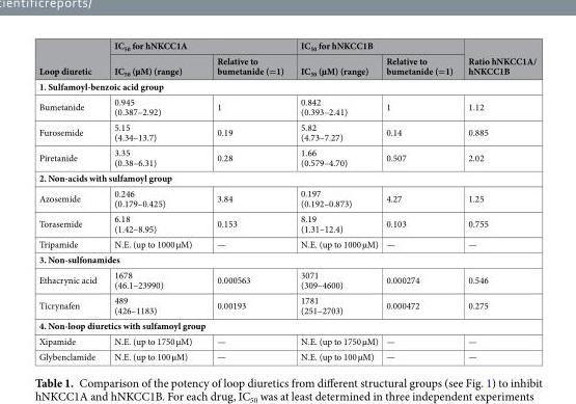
<table><thead><tr><td rowspan="2">Loop diuretic</td><td colspan="2">IC<sub>50</sub> for hNKCC1A</td><td colspan="2">IC<sub>50</sub> for hNKCC1B</td><td rowspan="2">Ratio hNKCC1A/ hNKCC1B</td></tr><tr><td>IC<sub>50</sub> (µM) (range)</td><td>Relative to bumetanide (=1)</td><td>IC<sub>50</sub> (µM) (range)</td><td>Relative to bumetanide (=1)</td></tr></thead><tbody><tr><td colspan="6">1. Sulfamoyl-benzoic acid group</td></tr><tr><td>Bumetanide</td><td>0.945 (0.387–2.92)</td><td>1</td><td>0.842 (0.393–2.41)</td><td>1</td><td>1.12</td></tr><tr><td>Furosemide</td><td>5.15 (4.34–13.7)</td><td>0.19</td><td>5.82 (4.73–7.27)</td><td>0.14</td><td>0.885</td></tr><tr><td>Piretanide</td><td>3.35 (0.38–6.31)</td><td>0.28</td><td>1.66 (0.579–4.70)</td><td>0.507</td><td>2.02</td></tr><tr><td colspan="6">2. Non-acids with sulfamoyl group</td></tr><tr><td>Azosemide</td><td>0.246 (0.179–0.425)</td><td>3.84</td><td>0.197 (0.192–0.873)</td><td>4.27</td><td>1.25</td></tr><tr><td>Torasemide</td><td>6.18 (1.42–8.95)</td><td>0.153</td><td>8.19 (1.31–12.4)</td><td>0.103</td><td>0.755</td></tr><tr><td>Tripamide</td><td>N.E. (up to 1000 µM)</td><td>—</td><td>N.E. (up to 1000 µM)</td><td>—</td><td>—</td></tr><tr><td colspan="6">3. Non-sulfonamides</td></tr><tr><td>Ethacrynic acid</td><td>1678 (46.1–23990)</td><td>0.000563</td><td>3071 (309–4600)</td><td>0.000274</td><td>0.546</td></tr><tr><td>Ticrynafen</td><td>489 (426–1183)</td><td>0.00193</td><td>1781 (251–2703)</td><td>0.000472</td><td>0.275</td></tr><tr><td colspan="6">4. Non-loop diuretics with sulfamoyl group</td></tr><tr><td>Xipamide</td><td>N.E. (up to 1750 µM)</td><td>—</td><td>N.E. (up to 1750 µM)</td><td>—</td><td>—</td></tr><tr><td>Glybenclamide</td><td>N.E. (up to 100 µM)</td><td>—</td><td>N.E. (up to 100 µM)</td><td>—</td><td>—</td></tr></tbody></table>